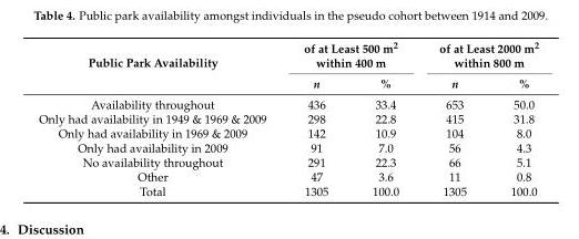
<table><thead><tr><td rowspan="2">Public Park Availability</td><td colspan="2">of at Least 500 m<sup>2</sup> within 400 m</td><td colspan="2">of at Least 2000 m<sup>2</sup> within 800 m</td></tr><tr><td>n</td><td>%</td><td>n</td><td>%</td></tr></thead><tbody><tr><td>Availability throughout</td><td>436</td><td>33.4</td><td>653</td><td>50.0</td></tr><tr><td>Only had availability in 1949 &amp; 1969 &amp; 2009</td><td>298</td><td>22.8</td><td>415</td><td>31.8</td></tr><tr><td>Only had availability in 1969 &amp; 2009</td><td>142</td><td>10.9</td><td>104</td><td>8.0</td></tr><tr><td>Only had availability in 2009</td><td>91</td><td>7.0</td><td>56</td><td>4.3</td></tr><tr><td>No availability throughout</td><td>291</td><td>22.3</td><td>66</td><td>5.1</td></tr><tr><td>Other</td><td>47</td><td>3.6</td><td>11</td><td>0.8</td></tr><tr><td>Total</td><td>1305</td><td>100.0</td><td>1305</td><td>100.0</td></tr></tbody></table>